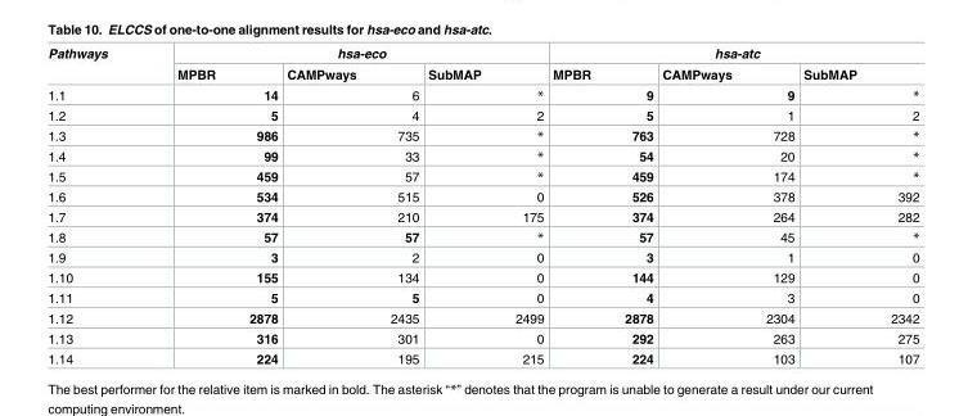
<table><thead><tr><td rowspan="2">Pathways</td><td colspan="3">hsa-eco</td><td colspan="3">hsa-atc</td></tr><tr><td>MPBR</td><td>CAMPways</td><td>SubMAP</td><td>MPBR</td><td>CAMPways</td><td>SubMAP</td></tr></thead><tbody><tr><td>1.1</td><td>14</td><td>6</td><td>*</td><td>9</td><td>9</td><td>*</td></tr><tr><td>1.2</td><td>5</td><td>4</td><td>2</td><td>5</td><td>1</td><td>2</td></tr><tr><td>1.3</td><td>986</td><td>735</td><td>*</td><td>763</td><td>728</td><td>*</td></tr><tr><td>1.4</td><td>99</td><td>33</td><td>*</td><td>54</td><td>20</td><td>*</td></tr><tr><td>1.5</td><td>459</td><td>57</td><td>*</td><td>459</td><td>174</td><td>*</td></tr><tr><td>1.6</td><td>534</td><td>515</td><td>0</td><td>526</td><td>378</td><td>392</td></tr><tr><td>1.7</td><td>374</td><td>210</td><td>175</td><td>374</td><td>264</td><td>282</td></tr><tr><td>1.8</td><td>57</td><td>57</td><td>*</td><td>57</td><td>45</td><td>*</td></tr><tr><td>1.9</td><td>3</td><td>2</td><td>0</td><td>3</td><td>1</td><td>0</td></tr><tr><td>1.10</td><td>155</td><td>134</td><td>0</td><td>144</td><td>129</td><td>0</td></tr><tr><td>1.11</td><td>5</td><td>5</td><td>0</td><td>4</td><td>3</td><td>0</td></tr><tr><td>1.12</td><td>2878</td><td>2435</td><td>2499</td><td>2878</td><td>2304</td><td>2342</td></tr><tr><td>1.13</td><td>316</td><td>301</td><td>0</td><td>292</td><td>263</td><td>275</td></tr><tr><td>1.14</td><td>224</td><td>195</td><td>215</td><td>224</td><td>103</td><td>107</td></tr></tbody></table>